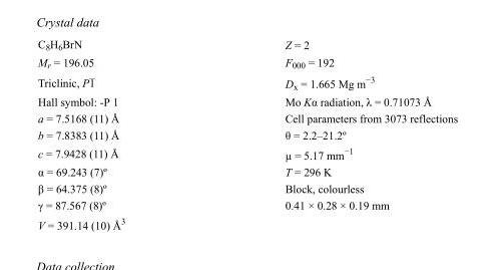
<table><tbody><tr><td>C<sub>8</sub>H<sub>6</sub>BrN</td><td>Z = 2</td></tr><tr><td>M<sub>r</sub> = 196.05</td><td>F000 = 192</td></tr><tr><td>Triclinic, P1</td><td>D<sub>x</sub> = 1.665 Mg m<sup>−3</sup></td></tr><tr><td>Hall symbol: -P 1</td><td>Mo Kα radiation, λ = 0.71073 Å</td></tr><tr><td>a = 7.5168 (11) Å</td><td>Cell parameters from 3073 reflections</td></tr><tr><td>b = 7.8383 (11) Å</td><td>θ = 2.2–21.2º</td></tr><tr><td>c = 7.9428 (11) Å</td><td>µ = 5.17 mm<sup>−1</sup></td></tr><tr><td>α = 69.243 (7)º</td><td>T = 296 K</td></tr><tr><td>β = 64.375 (8)º</td><td>Block, colourless</td></tr><tr><td>γ = 87.567 (8)º</td><td>0.41 × 0.28 × 0.19 mm</td></tr><tr><td>V = 391.14 (10) Å<sup>3</sup></td><td></td></tr></tbody></table>